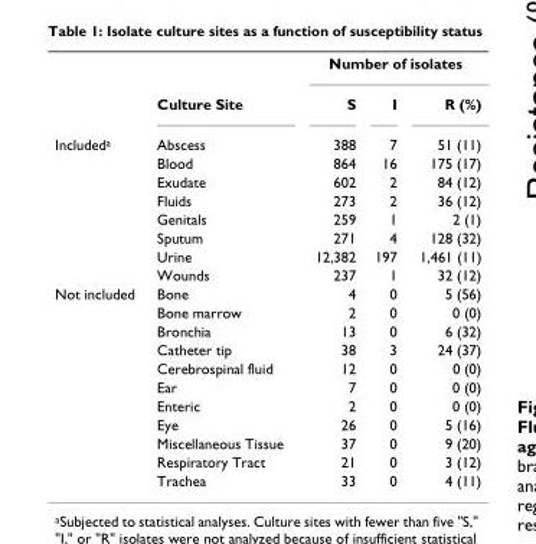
<table><thead><tr><td rowspan="2"></td><td rowspan="2">Culture Site</td><td colspan="3">Number of isolates</td></tr><tr><td>S</td><td>I</td><td>R (%)</td></tr></thead><tbody><tr><td rowspan="8">Included<sup>a</sup></td><td>Abscess</td><td>388</td><td>7</td><td>51 (11)</td></tr><tr><td>Blood</td><td>864</td><td>16</td><td>175 (17)</td></tr><tr><td>Exudate</td><td>602</td><td>2</td><td>84 (12)</td></tr><tr><td>Fluids</td><td>273</td><td>2</td><td>36 (12)</td></tr><tr><td>Genitals</td><td>259</td><td>1</td><td>2 (1)</td></tr><tr><td>Sputum</td><td>271</td><td>4</td><td>128 (32)</td></tr><tr><td>Urine</td><td>12,382</td><td>197</td><td>1,461 (11)</td></tr><tr><td>Wounds</td><td>237</td><td>1</td><td>32 (12)</td></tr><tr><td rowspan="11">Not included</td><td>Bone</td><td>4</td><td>0</td><td>5 (56)</td></tr><tr><td>Bone marrow</td><td>2</td><td>0</td><td>0 (0)</td></tr><tr><td>Bronchia</td><td>13</td><td>0</td><td>6 (32)</td></tr><tr><td>Catheter tip</td><td>38</td><td>3</td><td>24 (37)</td></tr><tr><td>Cerebrospinal fluid</td><td>12</td><td>0</td><td>0 (0)</td></tr><tr><td>Ear</td><td>7</td><td>0</td><td>0 (0)</td></tr><tr><td>Enteric</td><td>2</td><td>0</td><td>0 (0)</td></tr><tr><td>Eye</td><td>26</td><td>0</td><td>5 (16)</td></tr><tr><td>Miscellaneous Tissue</td><td>37</td><td>0</td><td>9 (20)</td></tr><tr><td>Respiratory Tract</td><td>21</td><td>0</td><td>3 (12)</td></tr><tr><td>Trachea</td><td>33</td><td>0</td><td>4 (11)</td></tr></tbody></table>